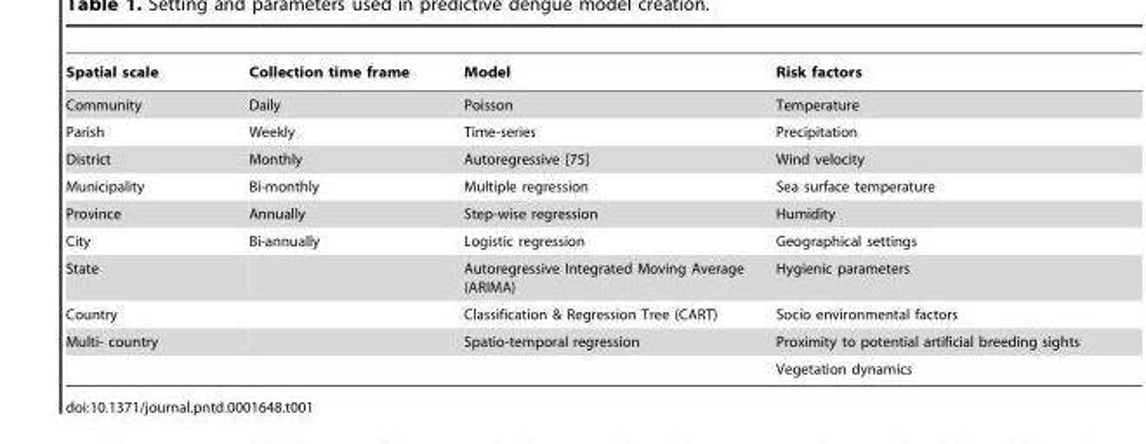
<table><thead><tr><td>Spatial scale</td><td>Collection time frame</td><td>Model</td><td>Risk factors</td></tr></thead><tbody><tr><td>Community</td><td>Daily</td><td>Poisson</td><td>Temperature</td></tr><tr><td>Parish</td><td>Weekly</td><td>Time-series</td><td>Precipitation</td></tr><tr><td>District</td><td>Monthly</td><td>Autoregressive [75]</td><td>Wind velocity</td></tr><tr><td>Municipality</td><td>Bi-monthly</td><td>Multiple regression</td><td>Sea surface temperature</td></tr><tr><td>Province</td><td>Annually</td><td>Step-wise regression</td><td>Humidity</td></tr><tr><td>City</td><td>Bi-annually</td><td>Logistic regression</td><td>Geographical settings</td></tr><tr><td>State</td><td></td><td>Autoregressive Integrated Moving Average (ARIMA)</td><td>Hygienic parameters</td></tr><tr><td>Country</td><td></td><td>Classification &amp; Regression Tree (CART)</td><td>Socio environmental factors</td></tr><tr><td rowspan="2">Multi- country</td><td></td><td>Spatio-temporal regression</td><td>Proximity to potential artificial breeding sights</td></tr><tr><td></td><td></td><td>Vegetation dynamics</td></tr></tbody></table>